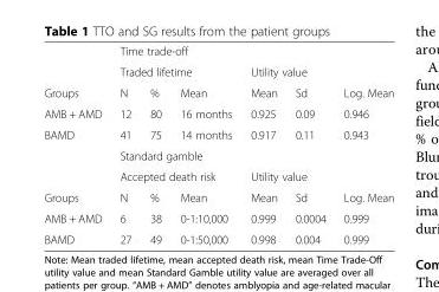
<table><thead><tr><td rowspan="3">Groups</td><td colspan="6">Time trade-off</td></tr><tr><td colspan="3">Traded lifetime</td><td colspan="3">Utility value</td></tr><tr><td>N</td><td>%</td><td>Mean</td><td>Mean</td><td>Sd</td><td>Log. Mean</td></tr></thead><tbody><tr><td>AMB + AMD</td><td>12</td><td>80</td><td>16 months</td><td>0.925</td><td>0.09</td><td>0.946</td></tr><tr><td rowspan="3">BAMD</td><td>41</td><td>75</td><td>14 months</td><td>0.917</td><td>0.11</td><td>0.943</td></tr><tr><td colspan="6">Standard gamble</td></tr><tr><td colspan="3">Accepted death risk</td><td colspan="3">Utility value</td></tr><tr><td>Groups</td><td>N</td><td>%</td><td>Mean</td><td>Mean</td><td>Sd</td><td>Log. Mean</td></tr><tr><td>AMB + AMD</td><td>6</td><td>38</td><td>0-1:10,000</td><td>0.999</td><td>0.0004</td><td>0.999</td></tr><tr><td>BAMD</td><td>27</td><td>49</td><td>0-1:50,000</td><td>0.998</td><td>0.004</td><td>0.999</td></tr></tbody></table>